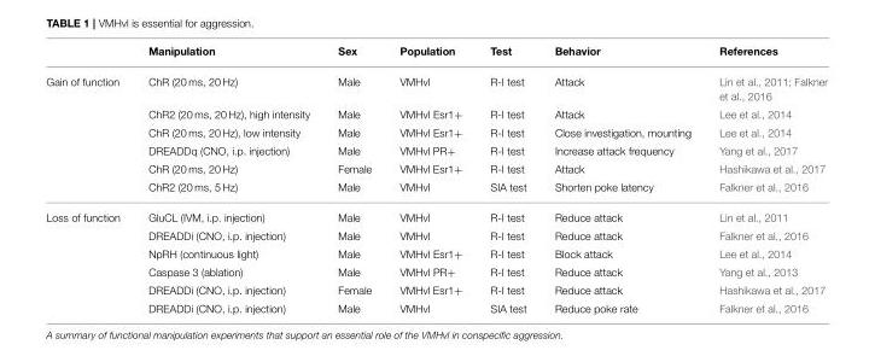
<table><thead><tr><td></td><td>Manipulation</td><td>Sex</td><td>Population</td><td>Test</td><td>Behavior</td><td>References</td></tr></thead><tbody><tr><td rowspan="6">Gain of function</td><td>ChR (20 ms, 20 Hz)</td><td>Male</td><td>VMHvl</td><td>R-I test</td><td>Attack</td><td>Lin et al., 2011; Falkner et al., 2016</td></tr><tr><td>ChR2 (20 ms, 20 Hz), high intensity</td><td>Male</td><td>VMHvl Esr1+</td><td>R-I test</td><td>Attack</td><td>Lee et al., 2014</td></tr><tr><td>ChR (20 ms, 20 Hz), low intensity</td><td>Male</td><td>VMHvl Esr1+</td><td>R-I test</td><td>Close investigation, mounting</td><td>Lee et al., 2014</td></tr><tr><td>DREADDq (CNO, i.p. injection)</td><td>Male</td><td>VMHvl PR+</td><td>R-I test</td><td>Increase attack frequency</td><td>Yang et al., 2017</td></tr><tr><td>ChR (20 ms, 20 Hz)</td><td>Female</td><td>VMHvl Esr1+</td><td>R-I test</td><td>Attack</td><td>Hashikawa et al., 2017</td></tr><tr><td>ChR2 (20 ms, 5 Hz)</td><td>Male</td><td>VMHvl</td><td>SIA test</td><td>Shorten poke latency</td><td>Falkner et al., 2016</td></tr><tr><td rowspan="6">Loss of function</td><td>GluCL (IVM, i.p. injection)</td><td>Male</td><td>VMHvl</td><td>R-I test</td><td>Reduce attack</td><td>Lin et al., 2011</td></tr><tr><td>DREADDi (CNO, i.p. injection)</td><td>Male</td><td>VMHvl</td><td>R-I test</td><td>Reduce attack</td><td>Falkner et al., 2016</td></tr><tr><td>NpRH (continuous light)</td><td>Male</td><td>VMHvl Esr1+</td><td>R-I test</td><td>Block attack</td><td>Lee et al., 2014</td></tr><tr><td>Caspase 3 (ablation)</td><td>Male</td><td>VMHvl PR+</td><td>R-I test</td><td>Reduce attack</td><td>Yang et al., 2013</td></tr><tr><td>DREADDi (CNO, i.p. injection)</td><td>Female</td><td>VMHvl Esr1+</td><td>R-I test</td><td>Reduce attack</td><td>Hashikawa et al., 2017</td></tr><tr><td>DREADDi (CNO, i.p. injection)</td><td>Male</td><td>VMHvl</td><td>SIA test</td><td>Reduce poke rate</td><td>Falkner et al., 2016</td></tr></tbody></table>